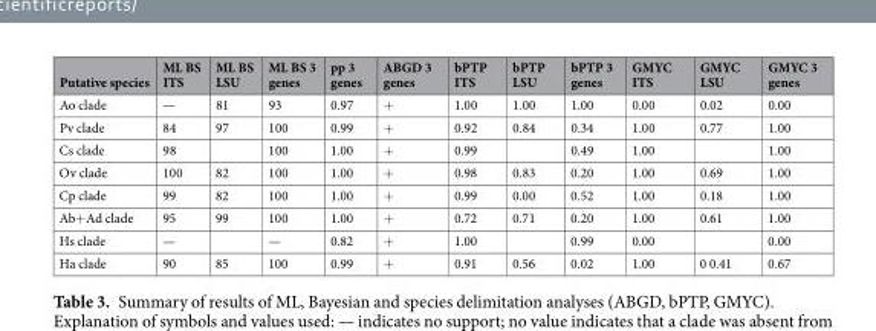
<table><thead><tr><td>Putative species</td><td>ML BS ITS</td><td>ML BS LSU</td><td>ML BS 3 genes</td><td>pp 3 genes</td><td>ABGD 3 genes</td><td>bPTP ITS</td><td>bPTP LSU</td><td>bPTP 3 genes</td><td>GMYC ITS</td><td>GMYC LSU</td><td>GMYC 3 genes</td></tr></thead><tbody><tr><td>Ao clade</td><td>—</td><td>81</td><td>93</td><td>0.97</td><td>+</td><td>1.00</td><td>1.00</td><td>1.00</td><td>0.00</td><td>0.02</td><td>0.00</td></tr><tr><td>Pv clade</td><td>84</td><td>97</td><td>100</td><td>0.99</td><td>+</td><td>0.92</td><td>0.84</td><td>0.34</td><td>1.00</td><td>0.77</td><td>1.00</td></tr><tr><td>Cs clade</td><td>98</td><td></td><td>100</td><td>1.00</td><td>+</td><td>0.99</td><td></td><td>0.49</td><td>1.00</td><td></td><td>1.00</td></tr><tr><td>Ov clade</td><td>100</td><td>82</td><td>100</td><td>1.00</td><td>+</td><td>0.98</td><td>0.83</td><td>0.20</td><td>1.00</td><td>0.69</td><td>1.00</td></tr><tr><td>Cp clade</td><td>99</td><td>82</td><td>100</td><td>1.00</td><td>+</td><td>0.99</td><td>0.00</td><td>0.52</td><td>1.00</td><td>0.18</td><td>1.00</td></tr><tr><td>Ab+Ad clade</td><td>95</td><td>99</td><td>100</td><td>1.00</td><td>+</td><td>0.72</td><td>0.71</td><td>0.20</td><td>1.00</td><td>0.61</td><td>1.00</td></tr><tr><td>Hs clade</td><td>—</td><td></td><td>—</td><td>0.82</td><td>+</td><td>1.00</td><td></td><td>0.99</td><td>0.00</td><td></td><td>0.00</td></tr><tr><td>Ha clade</td><td>90</td><td>85</td><td>100</td><td>0.99</td><td>+</td><td>0.91</td><td>0.56</td><td>0.02</td><td>1.00</td><td>0 0.41</td><td>0.67</td></tr></tbody></table>